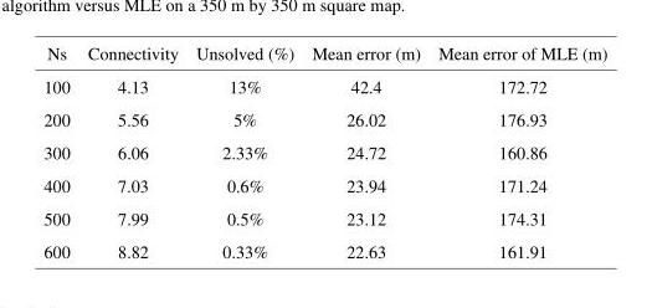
<table><thead><tr><td>Ns</td><td>Connectivity</td><td>Unsolved (%)</td><td>Mean error (m)</td><td>Mean error of MLE (m)</td></tr></thead><tbody><tr><td>100</td><td>4.13</td><td>13%</td><td>42.4</td><td>172.72</td></tr><tr><td>200</td><td>5.56</td><td>5%</td><td>26.02</td><td>176.93</td></tr><tr><td>300</td><td>6.06</td><td>2.33%</td><td>24.72</td><td>160.86</td></tr><tr><td>400</td><td>7.03</td><td>0.6%</td><td>23.94</td><td>171.24</td></tr><tr><td>500</td><td>7.99</td><td>0.5%</td><td>23.12</td><td>174.31</td></tr><tr><td>600</td><td>8.82</td><td>0.33%</td><td>22.63</td><td>161.91</td></tr></tbody></table>